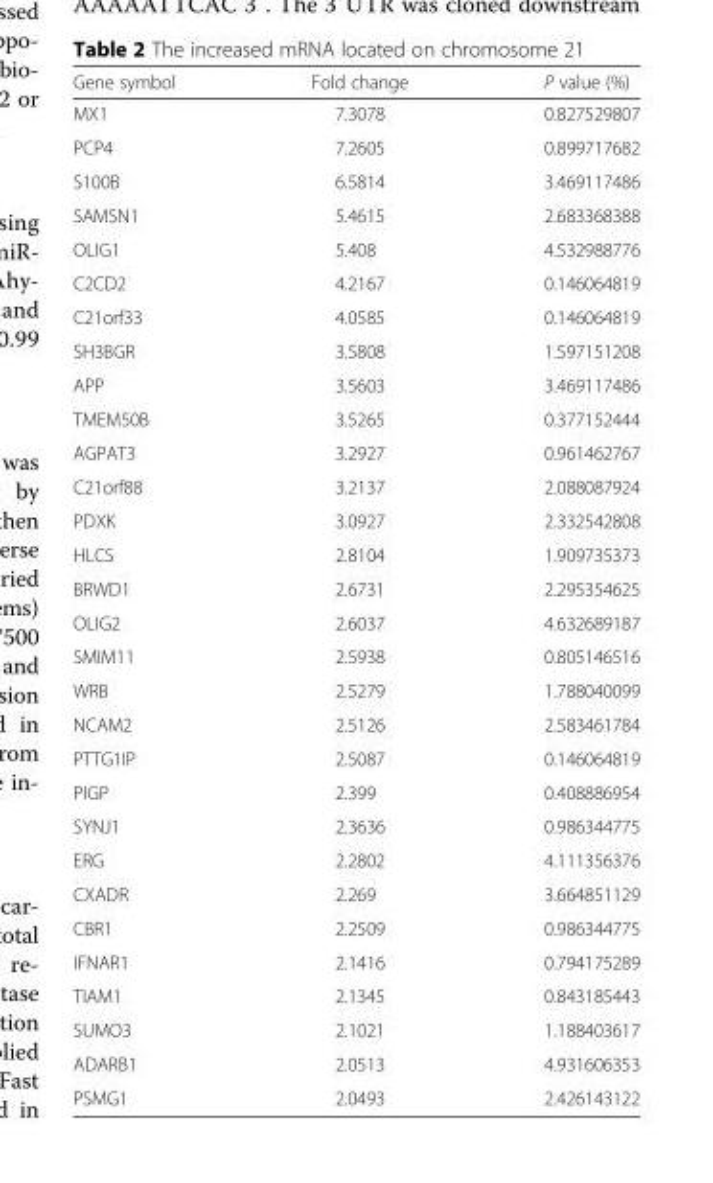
<table><thead><tr><td>Gene symbol</td><td>Fold change</td><td>P value (%)</td></tr></thead><tbody><tr><td>MX1</td><td>7.3078</td><td>0.827529807</td></tr><tr><td>PCP4</td><td>7.2605</td><td>0.899717682</td></tr><tr><td>S100B</td><td>6.5814</td><td>3.469117486</td></tr><tr><td>SAMSN1</td><td>5.4615</td><td>2.683368388</td></tr><tr><td>OLIG1</td><td>5.408</td><td>4.532988776</td></tr><tr><td>C2CD2</td><td>4.2167</td><td>0.146064819</td></tr><tr><td>C21orf33</td><td>4.0585</td><td>0.146064819</td></tr><tr><td>SH3BGR</td><td>3.5808</td><td>1.597151208</td></tr><tr><td>APP</td><td>3.5603</td><td>3.469117486</td></tr><tr><td>TMEM50B</td><td>3.5265</td><td>0.377152444</td></tr><tr><td>AGPAT3</td><td>3.2927</td><td>0.961462767</td></tr><tr><td>C21orf88</td><td>3.2137</td><td>2.088087924</td></tr><tr><td>PDXK</td><td>3.0927</td><td>2.332542808</td></tr><tr><td>HLCS</td><td>2.8104</td><td>1.909735373</td></tr><tr><td>BRWD1</td><td>2.6731</td><td>2.295354625</td></tr><tr><td>OLIG2</td><td>2.6037</td><td>4.632689187</td></tr><tr><td>SMIM11</td><td>2.5938</td><td>0.805146516</td></tr><tr><td>WRB</td><td>2.5279</td><td>1.788040099</td></tr><tr><td>NCAM2</td><td>2.5126</td><td>2.583461784</td></tr><tr><td>PTTG1IP</td><td>2.5087</td><td>0.146064819</td></tr><tr><td>PIGP</td><td>2.399</td><td>0.408886954</td></tr><tr><td>SYNJ1</td><td>2.3636</td><td>0.986344775</td></tr><tr><td>ERG</td><td>2.2802</td><td>4.111356376</td></tr><tr><td>CXADR</td><td>2.269</td><td>3.664851129</td></tr><tr><td>CBR1</td><td>2.2509</td><td>0.986344775</td></tr><tr><td>IFNAR1</td><td>2.1416</td><td>0.794175289</td></tr><tr><td>TIAM1</td><td>2.1345</td><td>0.843185443</td></tr><tr><td>SUMO3</td><td>2.1021</td><td>1.188403617</td></tr><tr><td>ADARB1</td><td>2.0513</td><td>4.931606353</td></tr><tr><td>PSMG1</td><td>2.0493</td><td>2.426143122</td></tr></tbody></table>